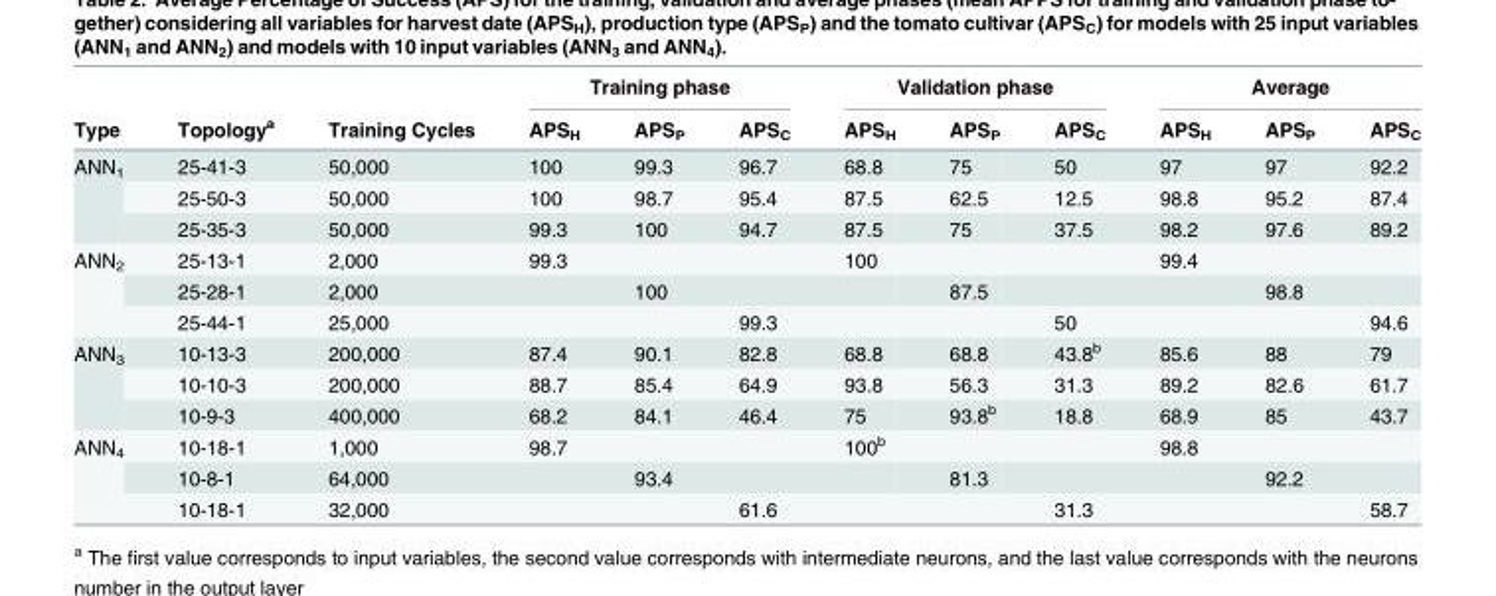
<table><thead><tr><td rowspan="2">Type</td><td rowspan="2">Topology<sup>a</sup></td><td rowspan="2">Training Cycles</td><td colspan="3">Training phase</td><td colspan="3">Validation phase</td><td colspan="3">Average</td></tr><tr><td>APS<sub>H</sub></td><td>APS<sub>P</sub></td><td>APS<sub>C</sub></td><td>APS<sub>H</sub></td><td>APS<sub>P</sub></td><td>APS<sub>C</sub></td><td>APS<sub>H</sub></td><td>APS<sub>P</sub></td><td>APS<sub>C</sub></td></tr></thead><tbody><tr><td rowspan="3">ANN<sub>1</sub></td><td>25-41-3</td><td>50,000</td><td>100</td><td>99.3</td><td>96.7</td><td>68.8</td><td>75</td><td>50</td><td>97</td><td>97</td><td>92.2</td></tr><tr><td>25-50-3</td><td>50,000</td><td>100</td><td>98.7</td><td>95.4</td><td>87.5</td><td>62.5</td><td>12.5</td><td>98.8</td><td>95.2</td><td>87.4</td></tr><tr><td>25-35-3</td><td>50,000</td><td>99.3</td><td>100</td><td>94.7</td><td>87.5</td><td>75</td><td>37.5</td><td>98.2</td><td>97.6</td><td>89.2</td></tr><tr><td rowspan="3">ANN<sub>2</sub></td><td>25-13-1</td><td>2,000</td><td>99.3</td><td></td><td></td><td>100</td><td></td><td></td><td>99.4</td><td></td><td></td></tr><tr><td>25-28-1</td><td>2,000</td><td></td><td>100</td><td></td><td></td><td>87.5</td><td></td><td></td><td>98.8</td><td></td></tr><tr><td>25-44-1</td><td>25,000</td><td></td><td></td><td>99.3</td><td></td><td></td><td>50</td><td></td><td></td><td>94.6</td></tr><tr><td rowspan="3">ANN<sub>3</sub></td><td>10-13-3</td><td>200,000</td><td>87.4</td><td>90.1</td><td>82.8</td><td>68.8</td><td>68.8</td><td>43.8<sup>b</sup></td><td>85.6</td><td>88</td><td>79</td></tr><tr><td>10-10-3</td><td>200,000</td><td>88.7</td><td>85.4</td><td>64.9</td><td>93.8</td><td>56.3</td><td>31.3</td><td>89.2</td><td>82.6</td><td>61.7</td></tr><tr><td>10-9-3</td><td>400,000</td><td>68.2</td><td>84.1</td><td>46.4</td><td>75</td><td>93.8<sup>b</sup></td><td>18.8</td><td>68.9</td><td>85</td><td>43.7</td></tr><tr><td rowspan="3">ANN<sub>4</sub></td><td>10-18-1</td><td>1,000</td><td>98.7</td><td></td><td></td><td>100<sup>b</sup></td><td></td><td></td><td>98.8</td><td></td><td></td></tr><tr><td>10-8-1</td><td>64,000</td><td></td><td>93.4</td><td></td><td></td><td>81.3</td><td></td><td></td><td>92.2</td><td></td></tr><tr><td>10-18-1</td><td>32,000</td><td></td><td></td><td>61.6</td><td></td><td></td><td>31.3</td><td></td><td></td><td>58.7</td></tr></tbody></table>